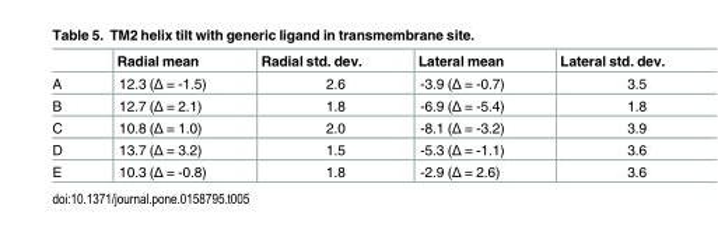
<table><thead><tr><td></td><td>Radial mean</td><td>Radial std. dev.</td><td>Lateral mean</td><td>Lateral std. dev.</td></tr></thead><tbody><tr><td>A</td><td>12.3 (Δ = -1.5)</td><td>2.6</td><td>-3.9 (Δ = -0.7)</td><td>3.5</td></tr><tr><td>B</td><td>12.7 (Δ = 2.1)</td><td>1.8</td><td>-6.9 (Δ = -5.4)</td><td>1.8</td></tr><tr><td>C</td><td>10.8 (Δ = 1.0)</td><td>2.0</td><td>-8.1 (Δ = -3.2)</td><td>3.9</td></tr><tr><td>D</td><td>13.7 (Δ = 3.2)</td><td>1.5</td><td>-5.3 (Δ = -1.1)</td><td>3.6</td></tr><tr><td>E</td><td>10.3 (Δ = -0.8)</td><td>1.8</td><td>-2.9 (Δ = 2.6)</td><td>3.6</td></tr></tbody></table>